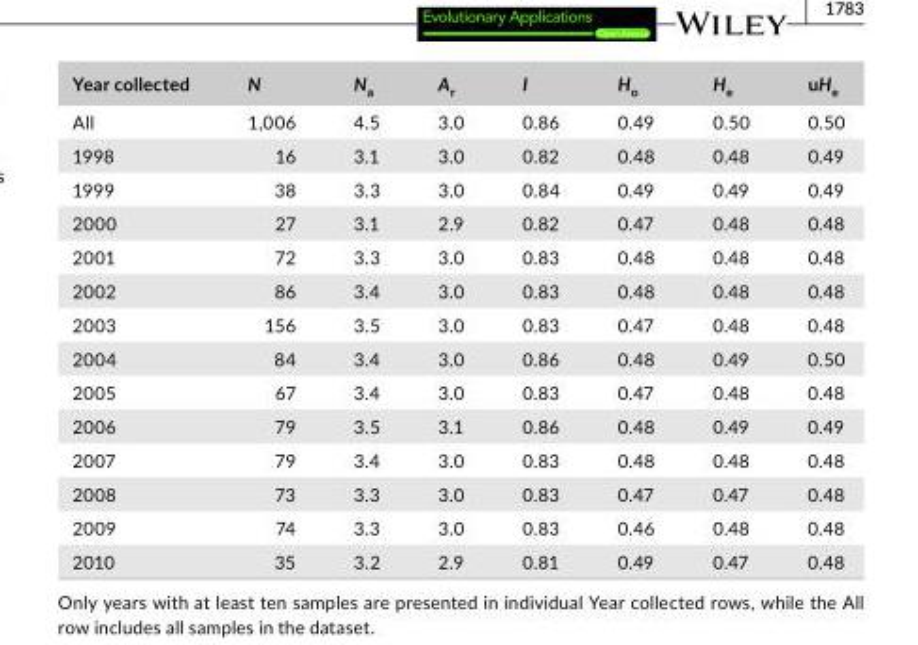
<table><thead><tr><td>Year collected</td><td>N</td><td>N<sub>a</sub></td><td>A<sub>r</sub></td><td>I</td><td>H<sub>o</sub></td><td>H<sub>e</sub></td><td>uH<sub>e</sub></td></tr></thead><tbody><tr><td>All</td><td>1,006</td><td>4.5</td><td>3.0</td><td>0.86</td><td>0.49</td><td>0.50</td><td>0.50</td></tr><tr><td>1998</td><td>16</td><td>3.1</td><td>3.0</td><td>0.82</td><td>0.48</td><td>0.48</td><td>0.49</td></tr><tr><td>1999</td><td>38</td><td>3.3</td><td>3.0</td><td>0.84</td><td>0.49</td><td>0.49</td><td>0.49</td></tr><tr><td>2000</td><td>27</td><td>3.1</td><td>2.9</td><td>0.82</td><td>0.47</td><td>0.48</td><td>0.48</td></tr><tr><td>2001</td><td>72</td><td>3.3</td><td>3.0</td><td>0.83</td><td>0.48</td><td>0.48</td><td>0.48</td></tr><tr><td>2002</td><td>86</td><td>3.4</td><td>3.0</td><td>0.83</td><td>0.48</td><td>0.48</td><td>0.48</td></tr><tr><td>2003</td><td>156</td><td>3.5</td><td>3.0</td><td>0.83</td><td>0.47</td><td>0.48</td><td>0.48</td></tr><tr><td>2004</td><td>84</td><td>3.4</td><td>3.0</td><td>0.86</td><td>0.48</td><td>0.49</td><td>0.50</td></tr><tr><td>2005</td><td>67</td><td>3.4</td><td>3.0</td><td>0.83</td><td>0.47</td><td>0.48</td><td>0.48</td></tr><tr><td>2006</td><td>79</td><td>3.5</td><td>3.1</td><td>0.86</td><td>0.48</td><td>0.49</td><td>0.49</td></tr><tr><td>2007</td><td>79</td><td>3.4</td><td>3.0</td><td>0.83</td><td>0.48</td><td>0.48</td><td>0.48</td></tr><tr><td>2008</td><td>73</td><td>3.3</td><td>3.0</td><td>0.83</td><td>0.47</td><td>0.47</td><td>0.48</td></tr><tr><td>2009</td><td>74</td><td>3.3</td><td>3.0</td><td>0.83</td><td>0.46</td><td>0.48</td><td>0.48</td></tr><tr><td>2010</td><td>35</td><td>3.2</td><td>2.9</td><td>0.81</td><td>0.49</td><td>0.47</td><td>0.48</td></tr></tbody></table>